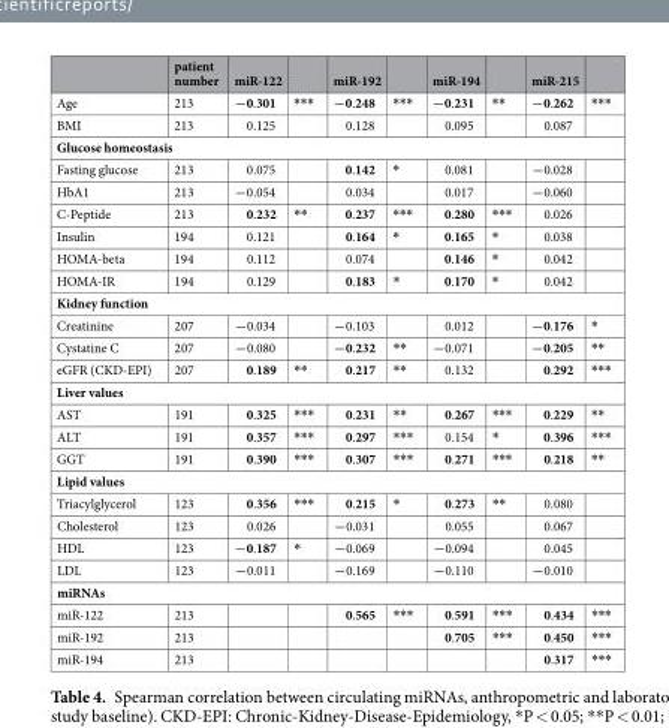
<table><thead><tr><td></td><td>patient number</td><td>miR-122</td><td></td><td>miR-192</td><td></td><td>miR-194</td><td></td><td>miR-215</td><td></td></tr></thead><tbody><tr><td>Age</td><td>213</td><td>−0.301</td><td>***</td><td>−0.248</td><td>***</td><td>−0.231</td><td>**</td><td>−0.262</td><td>***</td></tr><tr><td>BMI</td><td>213</td><td>0.125</td><td></td><td>0.128</td><td></td><td>0.095</td><td></td><td>0.087</td><td></td></tr><tr><td colspan="10">Glucose homeostasis</td></tr><tr><td>Fasting glucose</td><td>213</td><td>0.075</td><td></td><td>0.142</td><td>*</td><td>0.081</td><td></td><td>−0.028</td><td></td></tr><tr><td>HbA1</td><td>213</td><td>−0.054</td><td></td><td>0.034</td><td></td><td>0.017</td><td></td><td>−0.060</td><td></td></tr><tr><td>C-Peptide</td><td>213</td><td>0.232</td><td>**</td><td>0.237</td><td>***</td><td>0.280</td><td>***</td><td>0.026</td><td></td></tr><tr><td>Insulin</td><td>194</td><td>0.121</td><td></td><td>0.164</td><td>*</td><td>0.165</td><td>*</td><td>0.038</td><td></td></tr><tr><td>HOMA-beta</td><td>194</td><td>0.112</td><td></td><td>0.074</td><td></td><td>0.146</td><td>*</td><td>0.042</td><td></td></tr><tr><td>HOMA-IR</td><td>194</td><td>0.129</td><td></td><td>0.183</td><td>*</td><td>0.170</td><td>*</td><td>0.042</td><td></td></tr><tr><td colspan="10">Kidney function</td></tr><tr><td>Creatinine</td><td>207</td><td>−0.034</td><td></td><td>−0.103</td><td></td><td>0.012</td><td></td><td>−0.176</td><td>*</td></tr><tr><td>Cystatine C</td><td>207</td><td>−0.080</td><td></td><td>−0.232</td><td>**</td><td>−0.071</td><td></td><td>−0.205</td><td>**</td></tr><tr><td>eGFR (CKD-EPI)</td><td>207</td><td>0.189</td><td>**</td><td>0.217</td><td>**</td><td>0.132</td><td></td><td>0.292</td><td>***</td></tr><tr><td colspan="10">Liver values</td></tr><tr><td>AST</td><td>191</td><td>0.325</td><td>***</td><td>0.231</td><td>**</td><td>0.267</td><td>***</td><td>0.229</td><td>**</td></tr><tr><td>ALT</td><td>191</td><td>0.357</td><td>***</td><td>0.297</td><td>***</td><td>0.154</td><td>*</td><td>0.396</td><td>***</td></tr><tr><td>GGT</td><td>191</td><td>0.390</td><td>***</td><td>0.307</td><td>***</td><td>0.271</td><td>***</td><td>0.218</td><td>**</td></tr><tr><td colspan="10">Lipid values</td></tr><tr><td>Triacylglycerol</td><td>123</td><td>0.356</td><td>***</td><td>0.215</td><td>*</td><td>0.273</td><td>**</td><td>0.080</td><td></td></tr><tr><td>Cholesterol</td><td>123</td><td>0.026</td><td></td><td>−0.031</td><td></td><td>0.055</td><td></td><td>0.067</td><td></td></tr><tr><td>HDL</td><td>123</td><td>−0.187</td><td>*</td><td>−0.069</td><td></td><td>−0.094</td><td></td><td>0.045</td><td></td></tr><tr><td>LDL</td><td>123</td><td>−0.011</td><td></td><td>−0.169</td><td></td><td>−0.110</td><td></td><td>−0.010</td><td></td></tr><tr><td colspan="10">miRNAs</td></tr><tr><td>miR-122</td><td>213</td><td></td><td></td><td>0.565</td><td>***</td><td>0.591</td><td>***</td><td>0.434</td><td>***</td></tr><tr><td>miR-192</td><td>213</td><td></td><td></td><td></td><td></td><td>0.705</td><td>***</td><td>0.450</td><td>***</td></tr><tr><td>miR-194</td><td>213</td><td></td><td></td><td></td><td></td><td></td><td></td><td>0.317</td><td>***</td></tr></tbody></table>